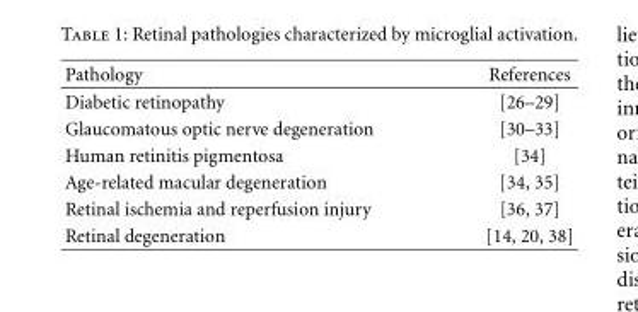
<table><thead><tr><td>Pathology</td><td>References</td></tr></thead><tbody><tr><td>Diabetic retinopathy</td><td>[26–29]</td></tr><tr><td>Glaucomatous optic nerve degeneration</td><td>[30–33]</td></tr><tr><td>Human retinitis pigmentosa</td><td>[34]</td></tr><tr><td>Age-related macular degeneration</td><td>[34, 35]</td></tr><tr><td>Retinal ischemia and reperfusion injury</td><td>[36, 37]</td></tr><tr><td>Retinal degeneration</td><td>[14, 20, 38]</td></tr></tbody></table>